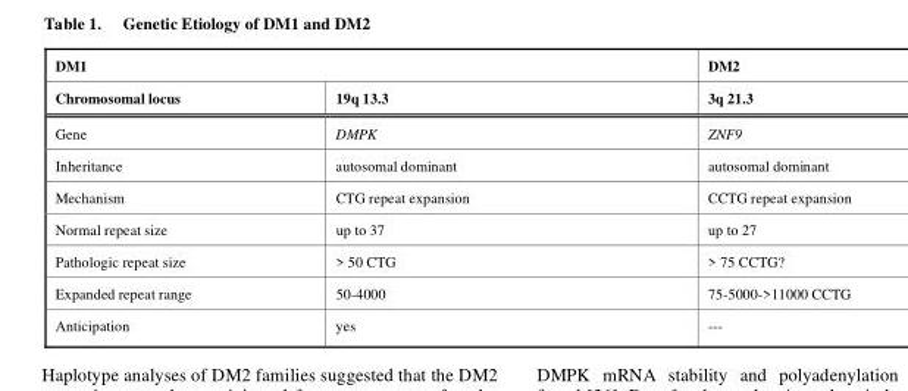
<table><thead><tr><td colspan="2">DM1</td><td rowspan="2">DM2 3q 21.3</td></tr><tr><td>Chromosomal locus</td><td>19q 13.3</td></tr></thead><tbody><tr><td>Gene</td><td>DMPK</td><td>ZNF9</td></tr><tr><td>Inheritance</td><td>autosomal dominant</td><td>autosomal dominant</td></tr><tr><td>Mechanism</td><td>CTG repeat expansion</td><td>CCTG repeat expansion</td></tr><tr><td>Normal repeat size</td><td>up to 37</td><td>up to 27</td></tr><tr><td>Pathologic repeat size</td><td>&gt; 50 CTG</td><td>&gt; 75 CCTG?</td></tr><tr><td>Expanded repeat range</td><td>50-4000</td><td>75-5000-&gt;11000 CCTG</td></tr><tr><td>Anticipation</td><td>yes</td><td>---</td></tr></tbody></table>